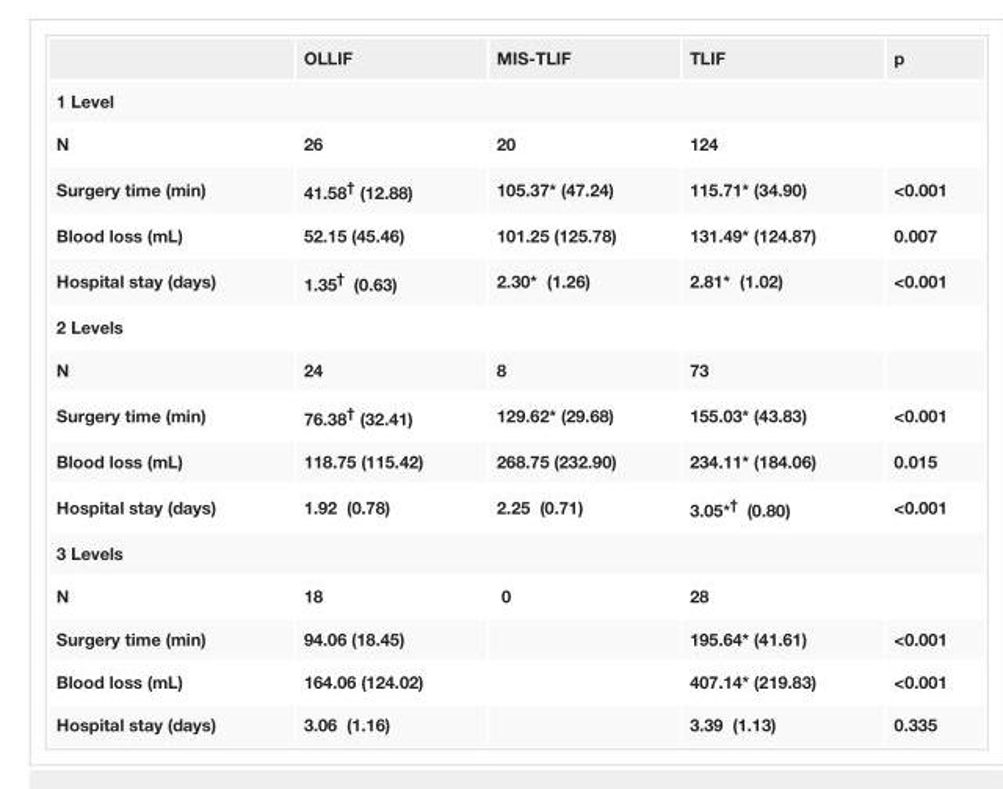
<table><thead><tr><td></td><td>OLLIF</td><td>MIS-TLIF</td><td>TLIF</td><td>p</td></tr></thead><tbody><tr><td colspan="5">1 Level</td></tr><tr><td>N</td><td>26</td><td>20</td><td>124</td><td></td></tr><tr><td>Surgery time (min)</td><td>41.58<sup>†</sup> (12.88)</td><td>105.37* (47.24)</td><td>115.71* (34.90)</td><td>&lt;0.001</td></tr><tr><td>Blood loss (mL)</td><td>52.15 (45.46)</td><td>101.25 (125.78)</td><td>131.49* (124.87)</td><td>0.007</td></tr><tr><td>Hospital stay (days)</td><td>1.35<sup>†</sup> (0.63)</td><td>2.30* (1.26)</td><td>2.81* (1.02)</td><td>&lt;0.001</td></tr><tr><td colspan="5">2 Levels</td></tr><tr><td>N</td><td>24</td><td>8</td><td>73</td><td></td></tr><tr><td>Surgery time (min)</td><td>76.38<sup>†</sup> (32.41)</td><td>129.62* (29.68)</td><td>155.03* (43.83)</td><td>&lt;0.001</td></tr><tr><td>Blood loss (mL)</td><td>118.75 (115.42)</td><td>268.75 (232.90)</td><td>234.11* (184.06)</td><td>0.015</td></tr><tr><td>Hospital stay (days)</td><td>1.92 (0.78)</td><td>2.25 (0.71)</td><td>3.05*<sup>†</sup> (0.80)</td><td>&lt;0.001</td></tr><tr><td colspan="5">3 Levels</td></tr><tr><td>N</td><td>18</td><td>0</td><td>28</td><td></td></tr><tr><td>Surgery time (min)</td><td>94.06 (18.45)</td><td></td><td>195.64* (41.61)</td><td>&lt;0.001</td></tr><tr><td>Blood loss (mL)</td><td>164.06 (124.02)</td><td></td><td>407.14* (219.83)</td><td>&lt;0.001</td></tr><tr><td>Hospital stay (days)</td><td>3.06 (1.16)</td><td></td><td>3.39 (1.13)</td><td>0.335</td></tr></tbody></table>